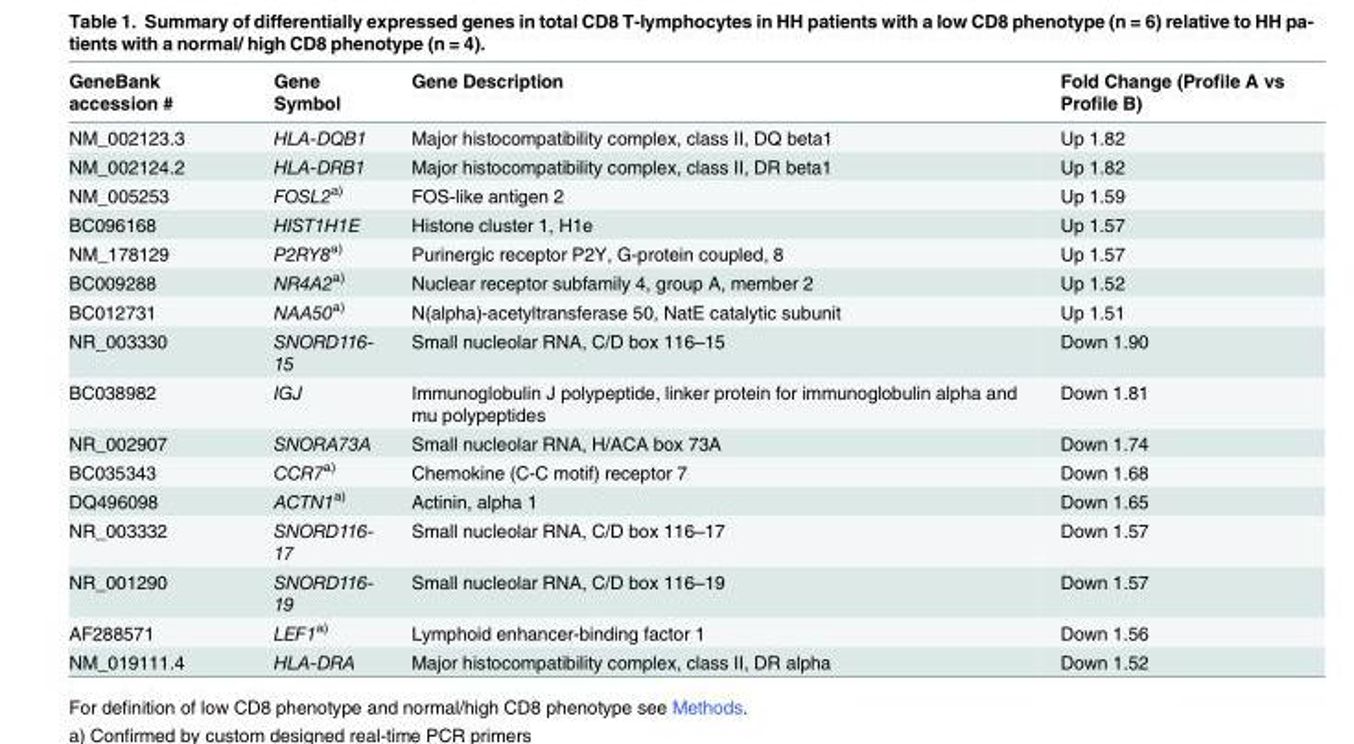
<table><thead><tr><td>GeneBank accession #</td><td>Gene Symbol</td><td>Gene Description</td><td>Fold Change (Profile A vs Profile B)</td></tr></thead><tbody><tr><td>NM_002123.3</td><td>HLA-DQB1</td><td>Major histocompatibility complex, class II, DQ beta1</td><td>Up 1.82</td></tr><tr><td>NM_002124.2</td><td>HLA-DRB1</td><td>Major histocompatibility complex, class II, DR beta1</td><td>Up 1.82</td></tr><tr><td>NM_005253</td><td>FOSL2<sup>a)</sup></td><td>FOS-like antigen 2</td><td>Up 1.59</td></tr><tr><td>BC096168</td><td>HIST1H1E</td><td>Histone cluster 1, H1e</td><td>Up 1.57</td></tr><tr><td>NM_178129</td><td>P2RY8<sup>a)</sup></td><td>Purinergic receptor P2Y, G-protein coupled, 8</td><td>Up 1.57</td></tr><tr><td>BC009288</td><td>NR4A2<sup>a)</sup></td><td>Nuclear receptor subfamily 4, group A, member 2</td><td>Up 1.52</td></tr><tr><td>BC012731</td><td>NAA50<sup>a)</sup></td><td>N(alpha)-acetyltransferase 50, NatE catalytic subunit</td><td>Up 1.51</td></tr><tr><td>NR_003330</td><td>SNORD116- 15</td><td>Small nucleolar RNA, C/D box 116–15</td><td>Down 1.90</td></tr><tr><td>BC038982</td><td>IGJ</td><td>Immunoglobulin J polypeptide, linker protein for immunoglobulin alpha and mu polypeptides</td><td>Down 1.81</td></tr><tr><td>NR_002907</td><td>SNORA73A</td><td>Small nucleolar RNA, H/ACA box 73A</td><td>Down 1.74</td></tr><tr><td>BC035343</td><td>CCR7<sup>a)</sup></td><td>Chemokine (C-C motif) receptor 7</td><td>Down 1.68</td></tr><tr><td>DQ496098</td><td>ACTN1<sup>a)</sup></td><td>Actinin, alpha 1</td><td>Down 1.65</td></tr><tr><td>NR_003332</td><td>SNORD116- 17</td><td>Small nucleolar RNA, C/D box 116–17</td><td>Down 1.57</td></tr><tr><td>NR_001290</td><td>SNORD116- 19</td><td>Small nucleolar RNA, C/D box 116–19</td><td>Down 1.57</td></tr><tr><td>AF288571</td><td>LEF1<sup>a)</sup></td><td>Lymphoid enhancer-binding factor 1</td><td>Down 1.56</td></tr><tr><td>NM_019111.4</td><td>HLA-DRA</td><td>Major histocompatibility complex, class II, DR alpha</td><td>Down 1.52</td></tr></tbody></table>